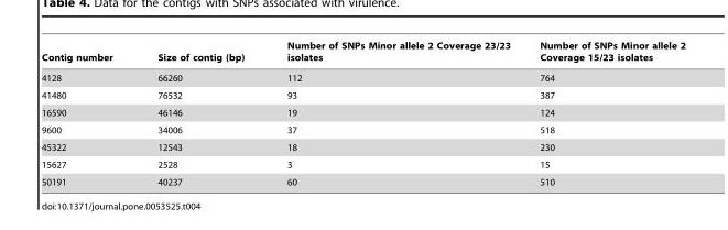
<table><thead><tr><td>Contig number</td><td>Size of contig (bp)</td><td>Number of SNPs Minor allele 2 Coverage 23/23 isolates</td><td>Number of SNPs Minor allele 2 Coverage 15/23 isolates</td></tr></thead><tbody><tr><td>4128</td><td>66260</td><td>112</td><td>764</td></tr><tr><td>41480</td><td>76532</td><td>93</td><td>387</td></tr><tr><td>16590</td><td>46146</td><td>19</td><td>124</td></tr><tr><td>9600</td><td>34006</td><td>37</td><td>518</td></tr><tr><td>45322</td><td>12543</td><td>18</td><td>230</td></tr><tr><td>15627</td><td>2528</td><td>3</td><td>15</td></tr><tr><td>50191</td><td>40237</td><td>60</td><td>510</td></tr></tbody></table>